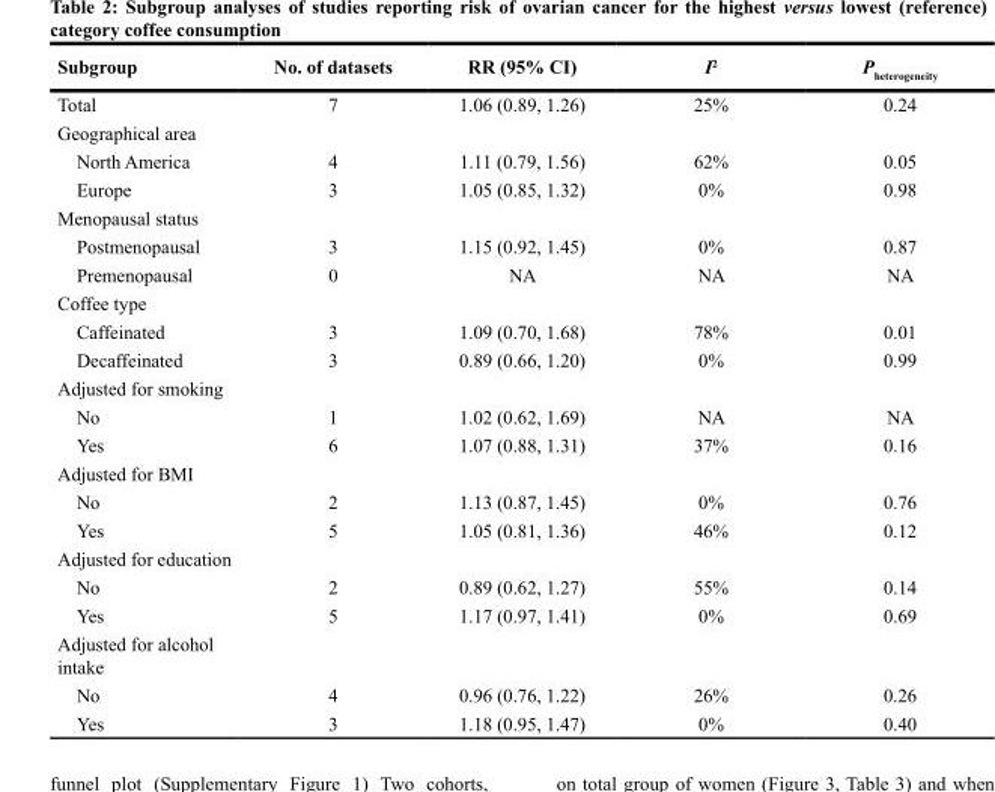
<table><thead><tr><td>Subgroup</td><td>No. of datasets</td><td>RR (95% CI)</td><td>I<sup>2</sup></td><td>P<sub>heterogeneity</sub></td></tr></thead><tbody><tr><td>Total</td><td>7</td><td>1.06 (0.89, 1.26)</td><td>25%</td><td>0.24</td></tr><tr><td colspan="5">Geographical area</td></tr><tr><td>North America</td><td>4</td><td>1.11 (0.79, 1.56)</td><td>62%</td><td>0.05</td></tr><tr><td>Europe</td><td>3</td><td>1.05 (0.85, 1.32)</td><td>0%</td><td>0.98</td></tr><tr><td colspan="5">Menopausal status</td></tr><tr><td>Postmenopausal</td><td>3</td><td>1.15 (0.92, 1.45)</td><td>0%</td><td>0.87</td></tr><tr><td>Premenopausal</td><td>0</td><td>NA</td><td>NA</td><td>NA</td></tr><tr><td colspan="5">Coffee type</td></tr><tr><td>Caffeinated</td><td>3</td><td>1.09 (0.70, 1.68)</td><td>78%</td><td>0.01</td></tr><tr><td>Decaffeinated</td><td>3</td><td>0.89 (0.66, 1.20)</td><td>0%</td><td>0.99</td></tr><tr><td colspan="5">Adjusted for smoking</td></tr><tr><td>No</td><td>1</td><td>1.02 (0.62, 1.69)</td><td>NA</td><td>NA</td></tr><tr><td>Yes</td><td>6</td><td>1.07 (0.88, 1.31)</td><td>37%</td><td>0.16</td></tr><tr><td colspan="5">Adjusted for BMI</td></tr><tr><td>No</td><td>2</td><td>1.13 (0.87, 1.45)</td><td>0%</td><td>0.76</td></tr><tr><td>Yes</td><td>5</td><td>1.05 (0.81, 1.36)</td><td>46%</td><td>0.12</td></tr><tr><td colspan="5">Adjusted for education</td></tr><tr><td>No</td><td>2</td><td>0.89 (0.62, 1.27)</td><td>55%</td><td>0.14</td></tr><tr><td>Yes</td><td>5</td><td>1.17 (0.97, 1.41)</td><td>0%</td><td>0.69</td></tr><tr><td colspan="5">Adjusted for alcohol intake</td></tr><tr><td>No</td><td>4</td><td>0.96 (0.76, 1.22)</td><td>26%</td><td>0.26</td></tr><tr><td>Yes</td><td>3</td><td>1.18 (0.95, 1.47)</td><td>0%</td><td>0.40</td></tr></tbody></table>